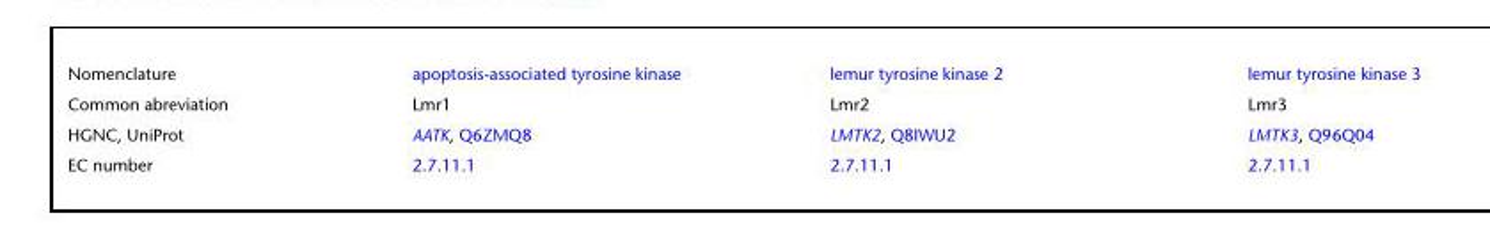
<table><tbody><tr><td>Nomenclature</td><td>apoptosis-associated tyrosine kinase</td><td>lemur tyrosine kinase 2</td><td>lemur tyrosine kinase 3</td></tr><tr><td>Common abreviation</td><td>Lmr1</td><td>Lmr2</td><td>Lmr3</td></tr><tr><td>HGNC, UniProt</td><td>AATK, Q6ZMQ8</td><td>LMTK2, Q8IWU2</td><td>LMTK3, Q96Q04</td></tr><tr><td>EC number</td><td>2.7.11.1</td><td>2.7.11.1</td><td>2.7.11.1</td></tr></tbody></table>